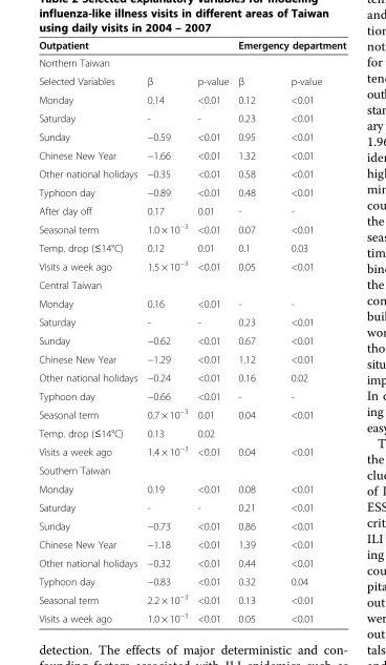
<table><thead><tr><td colspan="3">Outpatient</td><td colspan="2">Emergency department</td></tr><tr><td colspan="5">Northern Taiwan</td></tr><tr><td>Selected Variables</td><td>β</td><td>p-value</td><td>β</td><td>p-value</td></tr></thead><tbody><tr><td>Monday</td><td>0.14</td><td>&lt;0.01</td><td>0.12</td><td>&lt;0.01</td></tr><tr><td>Saturday</td><td>-</td><td>-</td><td>0.23</td><td>&lt;0.01</td></tr><tr><td>Sunday</td><td>−0.59</td><td>&lt;0.01</td><td>0.95</td><td>&lt;0.01</td></tr><tr><td>Chinese New Year</td><td>−1.66</td><td>&lt;0.01</td><td>1.32</td><td>&lt;0.01</td></tr><tr><td>Other national holidays</td><td>−0.35</td><td>&lt;0.01</td><td>0.58</td><td>&lt;0.01</td></tr><tr><td>Typhoon day</td><td>−0.89</td><td>&lt;0.01</td><td>0.48</td><td>&lt;0.01</td></tr><tr><td>After day off</td><td>0.17</td><td>0.01</td><td>-</td><td>-</td></tr><tr><td>Seasonal term</td><td>1.0 × 10<sup>−3</sup></td><td>&lt;0.01</td><td>0.07</td><td>&lt;0.01</td></tr><tr><td>Temp. drop (≤14°C)</td><td>0.12</td><td>0.01</td><td>0.1</td><td>0.03</td></tr><tr><td>Visits a week ago</td><td>1.5 × 10<sup>−3</sup></td><td>&lt;0.01</td><td>0.05</td><td>&lt;0.01</td></tr><tr><td colspan="5">Central Taiwan</td></tr><tr><td>Monday</td><td>0.16</td><td>&lt;0.01</td><td>-</td><td>-</td></tr><tr><td>Saturday</td><td>-</td><td>-</td><td>0.23</td><td>&lt;0.01</td></tr><tr><td>Sunday</td><td>−0.62</td><td>&lt;0.01</td><td>0.67</td><td>&lt;0.01</td></tr><tr><td>Chinese New Year</td><td>−1.29</td><td>&lt;0.01</td><td>1.12</td><td>&lt;0.01</td></tr><tr><td>Other national holidays</td><td>−0.24</td><td>&lt;0.01</td><td>0.16</td><td>0.02</td></tr><tr><td>Typhoon day</td><td>−0.66</td><td>&lt;0.01</td><td>-</td><td>-</td></tr><tr><td>Seasonal term</td><td>0.7 × 10<sup>−3</sup></td><td>0.01</td><td>0.04</td><td>&lt;0.01</td></tr><tr><td>Temp. drop (≤14°C)</td><td>0.13</td><td>0.02</td><td></td><td></td></tr><tr><td>Visits a week ago</td><td>1.4 × 10<sup>−3</sup></td><td>&lt;0.01</td><td>0.04</td><td>&lt;0.01</td></tr><tr><td colspan="5">Southern Taiwan</td></tr><tr><td>Monday</td><td>0.19</td><td>&lt;0.01</td><td>0.08</td><td>&lt;0.01</td></tr><tr><td>Saturday</td><td>-</td><td>-</td><td>0.21</td><td>&lt;0.01</td></tr><tr><td>Sunday</td><td>−0.73</td><td>&lt;0.01</td><td>0.86</td><td>&lt;0.01</td></tr><tr><td>Chinese New Year</td><td>−1.18</td><td>&lt;0.01</td><td>1.39</td><td>&lt;0.01</td></tr><tr><td>Other national holidays</td><td>−0.32</td><td>&lt;0.01</td><td>0.44</td><td>&lt;0.01</td></tr><tr><td>Typhoon day</td><td>−0.83</td><td>&lt;0.01</td><td>0.32</td><td>0.04</td></tr><tr><td>Seasonal term</td><td>2.2 × 10<sup>−3</sup></td><td>&lt;0.01</td><td>0.13</td><td>&lt;0.01</td></tr><tr><td>Visits a week ago</td><td>1.0 × 10<sup>−3</sup></td><td>&lt;0.01</td><td>0.05</td><td>&lt;0.01</td></tr></tbody></table>